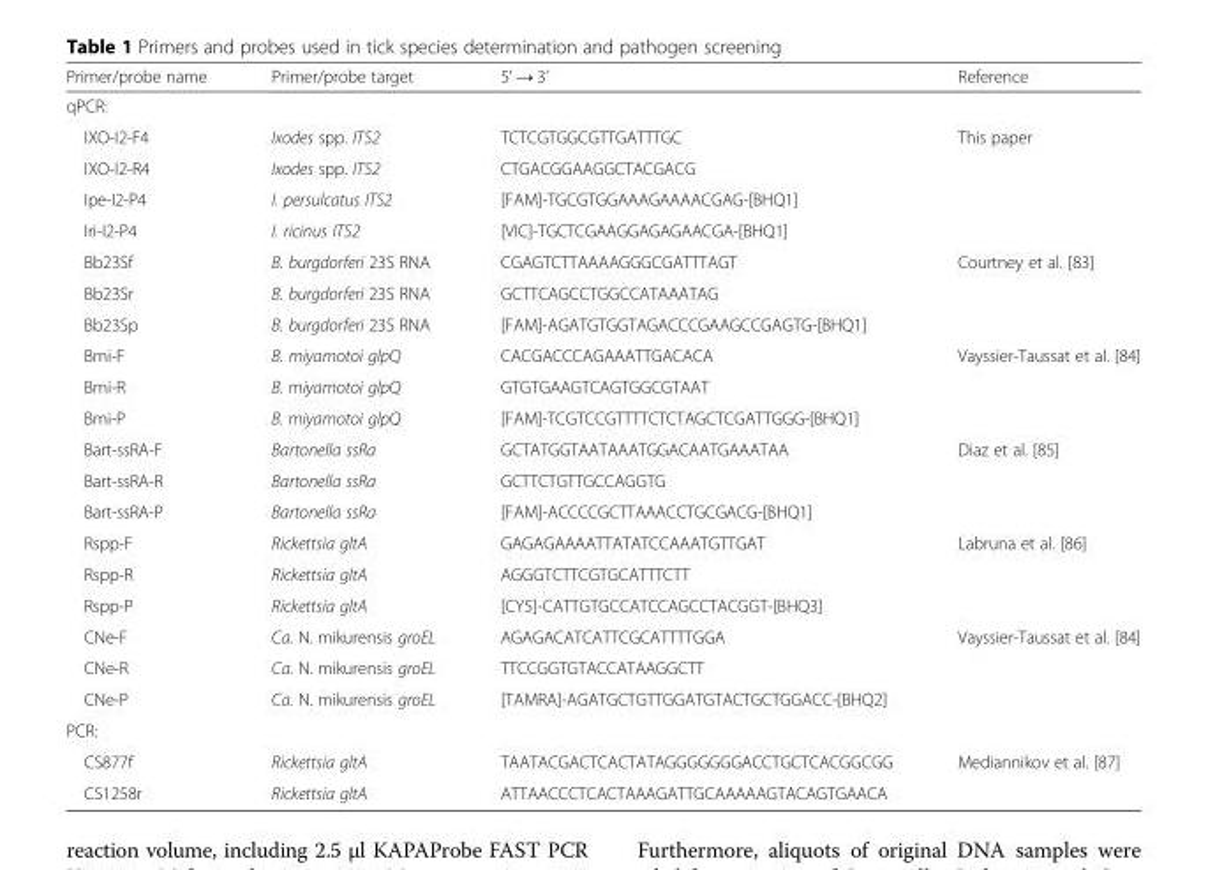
<table><thead><tr><td>Primer/probe name</td><td>Primer/probe target</td><td>5’ → 3’</td><td>Reference</td></tr></thead><tbody><tr><td colspan="4">qPCR:</td></tr><tr><td>IXO-I2-F4</td><td>Ixodes spp. ITS2</td><td>TCTCGTGGCGTTGATTTGC</td><td>This paper</td></tr><tr><td>IXO-I2-R4</td><td>Ixodes spp. ITS2</td><td>CTGACGGAAGGCTACGACG</td><td></td></tr><tr><td>Ipe-I2-P4</td><td>I. persulcatus ITS2</td><td>[FAM]-TGCGTGGAAAGAAAACGAG-[BHQ1]</td><td></td></tr><tr><td>Iri-I2-P4</td><td>I. ricinus ITS2</td><td>[VIC]-TGCTCGAAGGAGAGAACGA-[BHQ1]</td><td></td></tr><tr><td>Bb23Sf</td><td>B. burgdorferi 23S RNA</td><td>CGAGTCTTAAAAGGGCGATTTAGT</td><td>Courtney et al. [83]</td></tr><tr><td>Bb23Sr</td><td>B. burgdorferi 23S RNA</td><td>GCTTCAGCCTGGCCATAAATAG</td><td></td></tr><tr><td>Bb23Sp</td><td>B. burgdorferi 23S RNA</td><td>[FAM]-AGATGTGGTAGACCCGAAGCCGAGTG-[BHQ1]</td><td></td></tr><tr><td>Bmi-F</td><td>B. miyamotoi glpQ</td><td>CACGACCCAGAAATTGACACA</td><td rowspan="2">Vayssier-Taussat et al. [84]</td></tr><tr><td>Bmi-R</td><td>B. miyamotoi glpQ</td><td>GTGTGAAGTCAGTGGCGTAAT</td></tr><tr><td>Bmi-P</td><td>B. miyamotoi glpQ</td><td>[FAM]-TCGTCCGTTTTCTCTAGCTCGATTGGG-[BHQ1]</td><td></td></tr><tr><td>Bart-ssRA-F</td><td>Bartonella ssRa</td><td>GCTATGGTAATAAATGGACAATGAAATAA</td><td>Diaz et al. [85]</td></tr><tr><td>Bart-ssRA-R</td><td>Bartonella ssRa</td><td>GCTTCTGTTGCCAGGTG</td><td></td></tr><tr><td>Bart-ssRA-P</td><td>Bartonella ssRa</td><td>[FAM]-ACCCCGCTTAAACCTGCGACG-[BHQ1]</td><td></td></tr><tr><td>Rspp-F</td><td>Rickettsia gltA</td><td>GAGAGAAAATTATATCCAAATGTTGAT</td><td>Labruna et al. [86]</td></tr><tr><td>Rspp-R</td><td>Rickettsia gltA</td><td>AGGGTCTTCGTGCATTTCTT</td><td></td></tr><tr><td>Rspp-P</td><td>Rickettsia gltA</td><td>[CY5]-CATTGTGCCATCCAGCCTACGGT-[BHQ3]</td><td></td></tr><tr><td>CNe-F</td><td>Ca. N. mikurensis groEL</td><td>AGAGACATCATTCGCATTTTGGA</td><td>Vayssier-Taussat et al. [84]</td></tr><tr><td>CNe-R</td><td>Ca. N. mikurensis groEL</td><td>TTCCGGTGTACCATAAGGCTT</td><td></td></tr><tr><td>CNe-P</td><td>Ca. N. mikurensis groEL</td><td>[TAMRA]-AGATGCTGTTGGATGTACTGCTGGACC-[BHQ2]</td><td></td></tr><tr><td colspan="4">PCR:</td></tr><tr><td>CS877f</td><td>Rickettsia gltA</td><td>TAATACGACTCACTATAGGGGGGGACCTGCTCACGGCGG</td><td>Mediannikov et al. [87]</td></tr><tr><td>CS1258r</td><td>Rickettsia gltA</td><td>ATTAACCCTCACTAAAGATTGCAAAAAGTACAGTGAACA</td><td></td></tr></tbody></table>